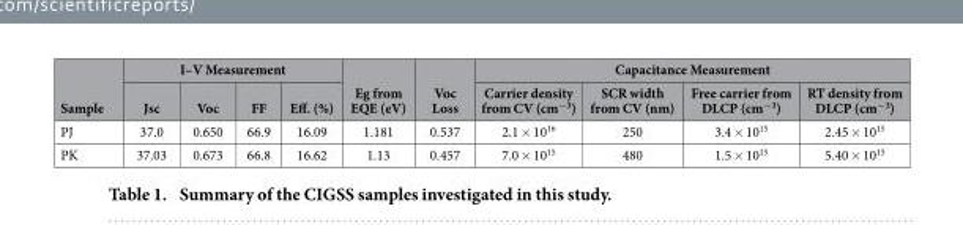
<table><thead><tr><td rowspan="2">Sample</td><td colspan="4">I–V Measurement</td><td rowspan="2">Eg from EQE (eV)</td><td rowspan="2">Voc Loss</td><td colspan="4">Capacitance Measurement</td></tr><tr><td>Jsc</td><td>Voc</td><td>FF</td><td>Eff. (%)</td><td>Carrier density from CV (cm<sup>−3</sup>)</td><td>SCR width from CV (nm)</td><td>Free carrier from DLCP (cm<sup>−3</sup>)</td><td>RT density from DLCP (cm<sup>−3</sup>)</td></tr></thead><tbody><tr><td>PJ</td><td>37.0</td><td>0.650</td><td>66.9</td><td>16.09</td><td>1.181</td><td>0.537</td><td>2.1 × 10<sup>16</sup></td><td>250</td><td>3.4 × 10<sup>15</sup></td><td>2.45 × 10<sup>15</sup></td></tr><tr><td>PK</td><td>37.03</td><td>0.673</td><td>66.8</td><td>16.62</td><td>1.13</td><td>0.457</td><td>7.0 × 10<sup>15</sup></td><td>480</td><td>1.5 × 10<sup>15</sup></td><td>5.40 × 10<sup>15</sup></td></tr></tbody></table>